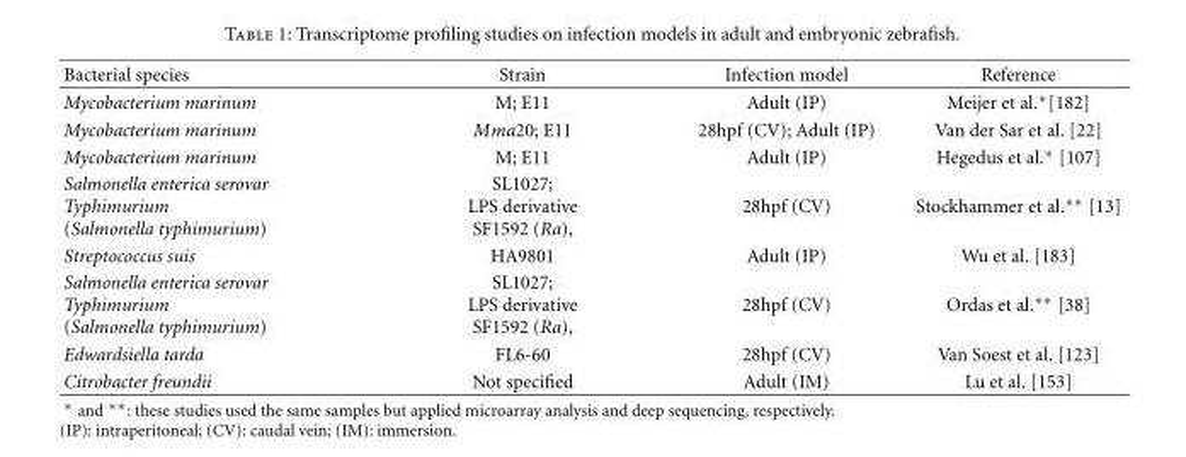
<table><thead><tr><td>Bacterial species</td><td>Strain</td><td>Infection model</td><td>Reference</td></tr></thead><tbody><tr><td>Mycobacterium marinum</td><td>M; E11</td><td>Adult (IP)</td><td>Meijer et al.∗[182]</td></tr><tr><td>Mycobacterium marinum</td><td>Mma20; E11</td><td>28hpf (CV); Adult (IP)</td><td>Van der Sar et al. [22]</td></tr><tr><td>Mycobacterium marinum</td><td>M; E11</td><td>Adult (IP)</td><td>Hegedus et al.∗ [107]</td></tr><tr><td>Salmonella enterica serovar Typhimurium (Salmonella typhimurium)</td><td>SL1027; LPS derivative SF1592 (Ra),</td><td>28hpf (CV)</td><td>Stockhammer et al.∗∗ [13]</td></tr><tr><td>Streptococcus suis</td><td>HA9801</td><td>Adult (IP)</td><td>Wu et al. [183]</td></tr><tr><td>Salmonella enterica serovar Typhimurium (Salmonella typhimurium)</td><td>SL1027; LPS derivative SF1592 (Ra),</td><td>28hpf (CV)</td><td>Ordas et al.∗∗ [38]</td></tr><tr><td>Edwardsiella tarda</td><td>FL6-60</td><td>28hpf (CV)</td><td>Van Soest et al. [123]</td></tr><tr><td>Citrobacter freundii</td><td>Not specified</td><td>Adult (IM)</td><td>Lu et al. [153]</td></tr></tbody></table>